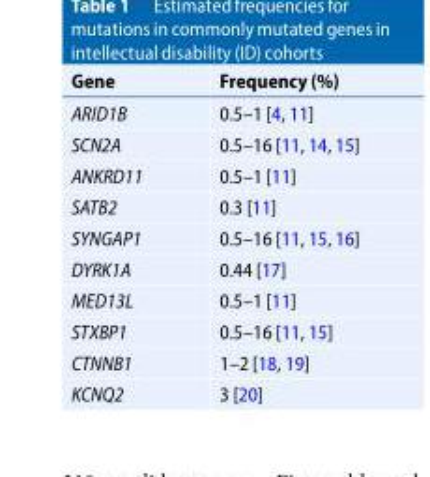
<table><thead><tr><td>Gene</td><td>Frequency (%)</td></tr></thead><tbody><tr><td>ARID1B</td><td>0.5–1 [4, 11]</td></tr><tr><td>SCN2A</td><td>0.5–16 [11, 14, 15]</td></tr><tr><td>ANKRD11</td><td>0.5–1 [11]</td></tr><tr><td>SATB2</td><td>0.3 [11]</td></tr><tr><td>SYNGAP1</td><td>0.5–16 [11, 15, 16]</td></tr><tr><td>DYRK1A</td><td>0.44 [17]</td></tr><tr><td>MED13L</td><td>0.5–1 [11]</td></tr><tr><td>STXBP1</td><td>0.5–16 [11, 15]</td></tr><tr><td>CTNNB1</td><td>1–2 [18, 19]</td></tr><tr><td>KCNQ2</td><td>3 [20]</td></tr></tbody></table>